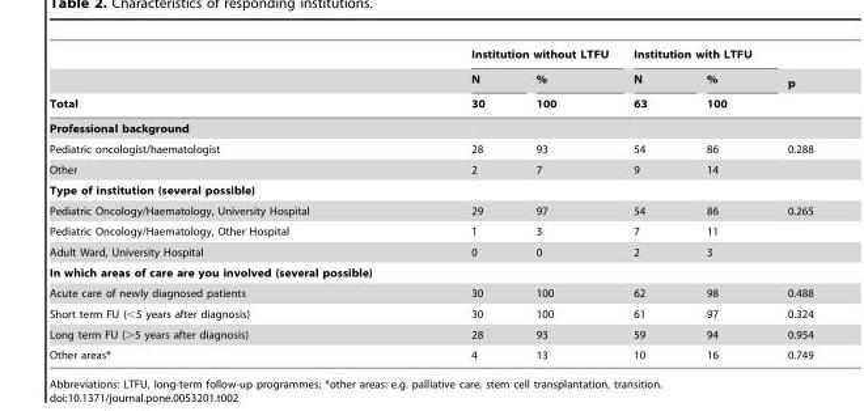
<table><thead><tr><td rowspan="3">Total</td><td colspan="2">Institution without LTFU</td><td colspan="2">Institution with LTFU</td><td rowspan="3">p</td></tr><tr><td rowspan="2">N 30</td><td rowspan="2">% 100</td><td rowspan="2">N 63</td><td rowspan="2">% 100</td></tr><tr></tr></thead><tbody><tr><td colspan="6">Professional background</td></tr><tr><td>Pediatric oncologist/haematologist</td><td>28</td><td>93</td><td>54</td><td>86</td><td>0.288</td></tr><tr><td>Other</td><td>2</td><td>7</td><td>9</td><td>14</td><td></td></tr><tr><td colspan="6">Type of institution (several possible)</td></tr><tr><td>Pediatric Oncology/Haematology, University Hospital</td><td>29</td><td>97</td><td>54</td><td>86</td><td>0.265</td></tr><tr><td>Pediatric Oncology/Haematology, Other Hospital</td><td>1</td><td>3</td><td>7</td><td>11</td><td></td></tr><tr><td>Adult Ward, University Hospital</td><td>0</td><td>0</td><td>2</td><td>3</td><td></td></tr><tr><td colspan="6">In which areas of care are you involved (several possible)</td></tr><tr><td>Acute care of newly diagnosed patients</td><td>30</td><td>100</td><td>62</td><td>98</td><td>0.488</td></tr><tr><td>Short term FU (&lt;5 years after diagnosis)</td><td>30</td><td>100</td><td>61</td><td>97</td><td>0.324</td></tr><tr><td>Long term FU (&gt;5 years after diagnosis)</td><td>28</td><td>93</td><td>59</td><td>94</td><td>0.954</td></tr><tr><td>Other areas*</td><td>4</td><td>13</td><td>10</td><td>16</td><td>0.749</td></tr></tbody></table>